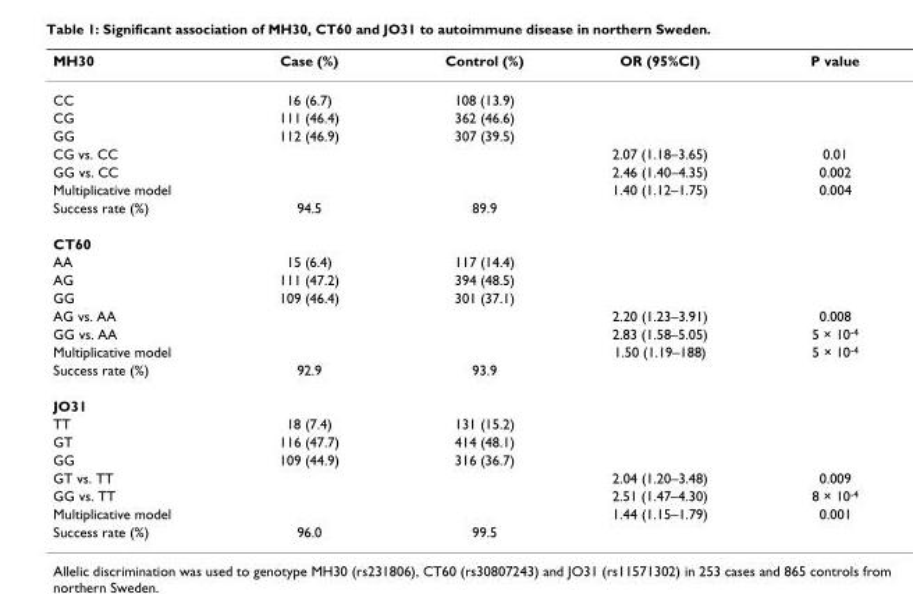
<table><thead><tr><td>MH30</td><td>Case (%)</td><td>Control (%)</td><td>OR (95%CI)</td><td>P value</td></tr></thead><tbody><tr><td>CC</td><td>16 (6.7)</td><td>108 (13.9)</td><td></td><td></td></tr><tr><td>CG</td><td>111 (46.4)</td><td>362 (46.6)</td><td></td><td></td></tr><tr><td>GG</td><td>112 (46.9)</td><td>307 (39.5)</td><td></td><td></td></tr><tr><td>CG vs. CC</td><td></td><td></td><td>2.07 (1.18–3.65)</td><td>0.01</td></tr><tr><td>GG vs. CC</td><td></td><td></td><td>2.46 (1.40–4.35)</td><td>0.002</td></tr><tr><td>Multiplicative model</td><td></td><td></td><td>1.40 (1.12–1.75)</td><td>0.004</td></tr><tr><td>Success rate (%)</td><td>94.5</td><td>89.9</td><td></td><td></td></tr><tr><td colspan="5">CT60</td></tr><tr><td>AA</td><td>15 (6.4)</td><td>117 (14.4)</td><td></td><td></td></tr><tr><td>AG</td><td>111 (47.2)</td><td>394 (48.5)</td><td></td><td></td></tr><tr><td>GG</td><td>109 (46.4)</td><td>301 (37.1)</td><td></td><td></td></tr><tr><td>AG vs. AA</td><td></td><td></td><td>2.20 (1.23–3.91)</td><td>0.008</td></tr><tr><td>GG vs. AA</td><td></td><td></td><td>2.83 (1.58–5.05)</td><td>5 × 10<sup>-4</sup></td></tr><tr><td>Multiplicative model</td><td></td><td></td><td>1.50 (1.19–188)</td><td>5 × 10<sup>-4</sup></td></tr><tr><td>Success rate (%)</td><td>92.9</td><td>93.9</td><td></td><td></td></tr><tr><td colspan="5">JO31</td></tr><tr><td>TT</td><td>18 (7.4)</td><td>131 (15.2)</td><td></td><td></td></tr><tr><td>GT</td><td>116 (47.7)</td><td>414 (48.1)</td><td></td><td></td></tr><tr><td>GG</td><td>109 (44.9)</td><td>316 (36.7)</td><td></td><td></td></tr><tr><td>GT vs. TT</td><td></td><td></td><td>2.04 (1.20–3.48)</td><td>0.009</td></tr><tr><td>GG vs. TT</td><td></td><td></td><td>2.51 (1.47–4.30)</td><td>8 × 10<sup>-4</sup></td></tr><tr><td>Multiplicative model</td><td></td><td></td><td>1.44 (1.15–1.79)</td><td>0.001</td></tr><tr><td>Success rate (%)</td><td>96.0</td><td>99.5</td><td></td><td></td></tr></tbody></table>